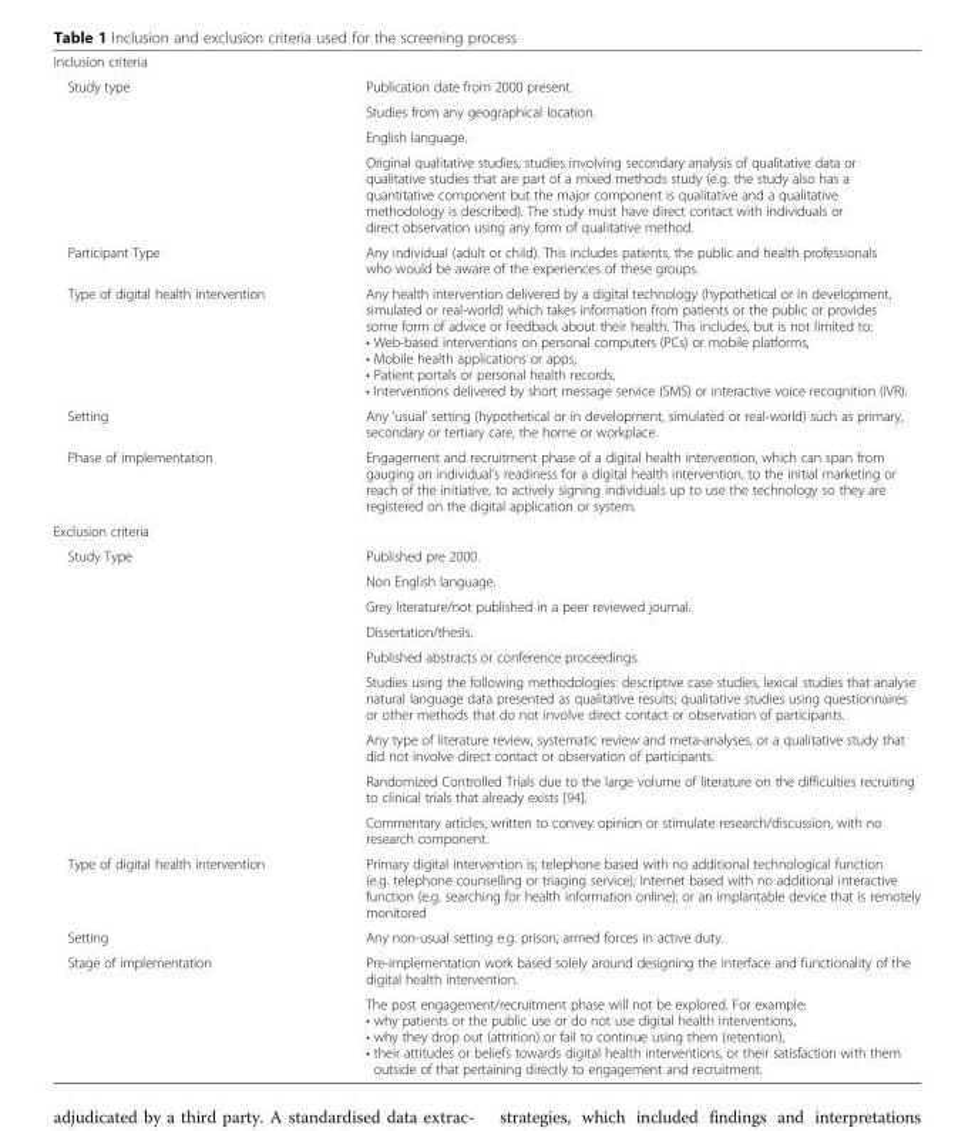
<table><tbody><tr><td colspan="2">Inclusion criteria</td></tr><tr><td rowspan="4">Study type</td><td>Publication date from 2000 present.</td></tr><tr><td>Studies from any geographical location.</td></tr><tr><td>English language.</td></tr><tr><td>Original qualitative studies, studies involving secondary analysis of qualitative data or qualitative studies that are part of a mixed methods study (e.g. the study also has a quantitative component but the major component is qualitative and a qualitative methodology is described). The study must have direct contact with individuals or direct observation using any form of qualitative method.</td></tr><tr><td>Participant Type</td><td>Any individual (adult or child). This includes patients, the public and health professionals who would be aware of the experiences of these groups.</td></tr><tr><td>Type of digital health intervention</td><td>Any health intervention delivered by a digital technology (hypothetical or in development, simulated or real-world) which takes information from patients or the public or provides some form of advice or feedback about their health. This includes, but is not limited to: • Web-based interventions on personal computers (PCs) or mobile platforms, • Mobile health applications or apps, • Patient portals or personal health records, • Interventions delivered by short message service (SMS) or interactive voice recognition (IVR).</td></tr><tr><td>Setting</td><td>Any ‘usual’ setting (hypothetical or in development, simulated or real-world) such as primary, secondary or tertiary care, the home or workplace.</td></tr><tr><td>Phase of implementation</td><td>Engagement and recruitment phase of a digital health intervention, which can span from gauging an individual’s readiness for a digital health intervention, to the initial marketing or reach of the initiative, to actively signing individuals up to use the technology so they are registered on the digital application or system.</td></tr><tr><td colspan="2">Exclusion criteria</td></tr><tr><td rowspan="9">Study Type</td><td>Published pre 2000.</td></tr><tr><td>Non English language.</td></tr><tr><td>Grey literature/not published in a peer reviewed journal.</td></tr><tr><td>Dissertation/thesis.</td></tr><tr><td>Published abstracts or conference proceedings.</td></tr><tr><td>Studies using the following methodologies: descriptive case studies, lexical studies that analyse natural language data presented as qualitative results; qualitative studies using questionnaires or other methods that do not involve direct contact or observation of participants.</td></tr><tr><td>Any type of literature review, systematic review and meta-analyses, or a qualitative study that did not involve direct contact or observation of participants.</td></tr><tr><td>Randomized Controlled Trials due to the large volume of literature on the difficulties recruiting to clinical trials that already exists [94].</td></tr><tr><td>Commentary articles, written to convey opinion or stimulate research/discussion, with no research component.</td></tr><tr><td>Type of digital health intervention</td><td>Primary digital intervention is; telephone based with no additional technological function (e.g. telephone counselling or triaging service); Internet based with no additional interactive function (e.g. searching for health information online); or an implantable device that is remotely monitored</td></tr><tr><td>Setting</td><td>Any non-usual setting e.g. prison, armed forces in active duty.</td></tr><tr><td rowspan="2">Stage of implementation</td><td>Pre-implementation work based solely around designing the interface and functionality of the digital health intervention.</td></tr><tr><td>The post engagement/recruitment phase will not be explored. For example: • why patients or the public use or do not use digital health interventions, • why they drop out (attrition) or fail to continue using them (retention), • their attitudes or beliefs towards digital health interventions, or their satisfaction with them outside of that pertaining directly to engagement and recruitment.</td></tr></tbody></table>